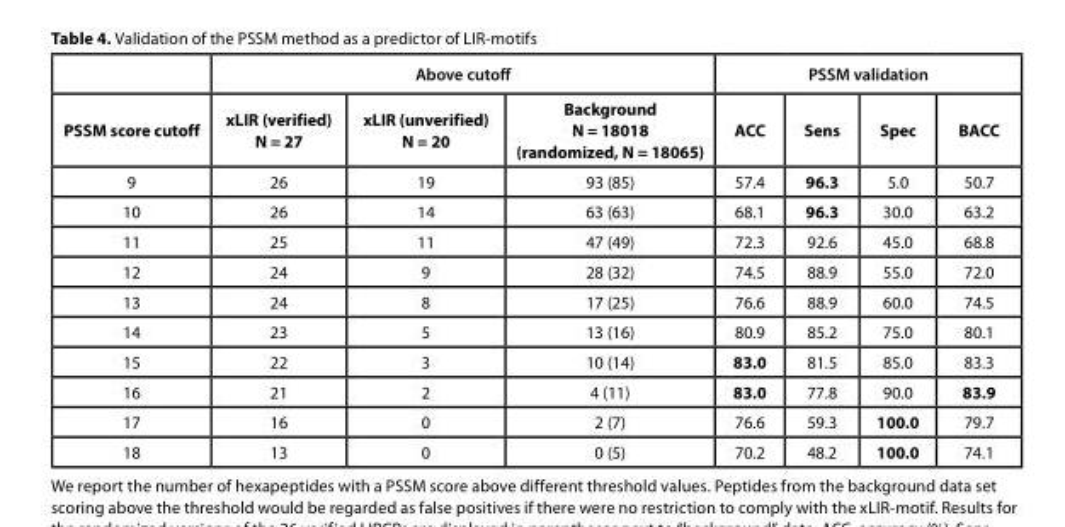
<table><thead><tr><td rowspan="2">PSSM score cutoff</td><td colspan="3">Above cutoff</td><td colspan="4">PSSM validation</td></tr><tr><td>xLIR (verified) N = 27</td><td>xLIR (unverified) N = 20</td><td>Background N = 18018 (randomized, N = 18065)</td><td>ACC</td><td>Sens</td><td>Spec</td><td>BACC</td></tr></thead><tbody><tr><td>9</td><td>26</td><td>19</td><td>93 (85)</td><td>57.4</td><td>96.3</td><td>5.0</td><td>50.7</td></tr><tr><td>10</td><td>26</td><td>14</td><td>63 (63)</td><td>68.1</td><td>96.3</td><td>30.0</td><td>63.2</td></tr><tr><td>11</td><td>25</td><td>11</td><td>47 (49)</td><td>72.3</td><td>92.6</td><td>45.0</td><td>68.8</td></tr><tr><td>12</td><td>24</td><td>9</td><td>28 (32)</td><td>74.5</td><td>88.9</td><td>55.0</td><td>72.0</td></tr><tr><td>13</td><td>24</td><td>8</td><td>17 (25)</td><td>76.6</td><td>88.9</td><td>60.0</td><td>74.5</td></tr><tr><td>14</td><td>23</td><td>5</td><td>13 (16)</td><td>80.9</td><td>85.2</td><td>75.0</td><td>80.1</td></tr><tr><td>15</td><td>22</td><td>3</td><td>10 (14)</td><td>83.0</td><td>81.5</td><td>85.0</td><td>83.3</td></tr><tr><td>16</td><td>21</td><td>2</td><td>4 (11)</td><td>83.0</td><td>77.8</td><td>90.0</td><td>83.9</td></tr><tr><td>17</td><td>16</td><td>0</td><td>2 (7)</td><td>76.6</td><td>59.3</td><td>100.0</td><td>79.7</td></tr><tr><td>18</td><td>13</td><td>0</td><td>0 (5)</td><td>70.2</td><td>48.2</td><td>100.0</td><td>74.1</td></tr></tbody></table>